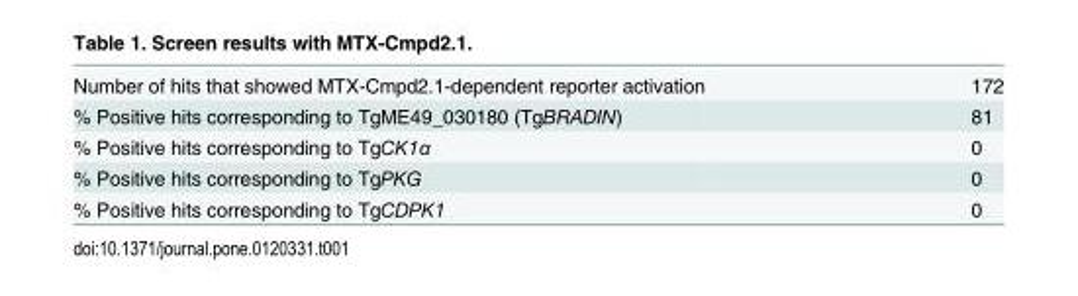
<table><tbody><tr><td>Number of hits that showed MTX-Cmpd2.1-dependent reporter activation</td><td>172</td></tr><tr><td>% Positive hits corresponding to TgME49_030180 (TgBRADIN)</td><td>81</td></tr><tr><td>% Positive hits corresponding to TgCK1α</td><td>0</td></tr><tr><td>% Positive hits corresponding to TgPKG</td><td>0</td></tr><tr><td>% Positive hits corresponding to TgCDPK1</td><td>0</td></tr></tbody></table>